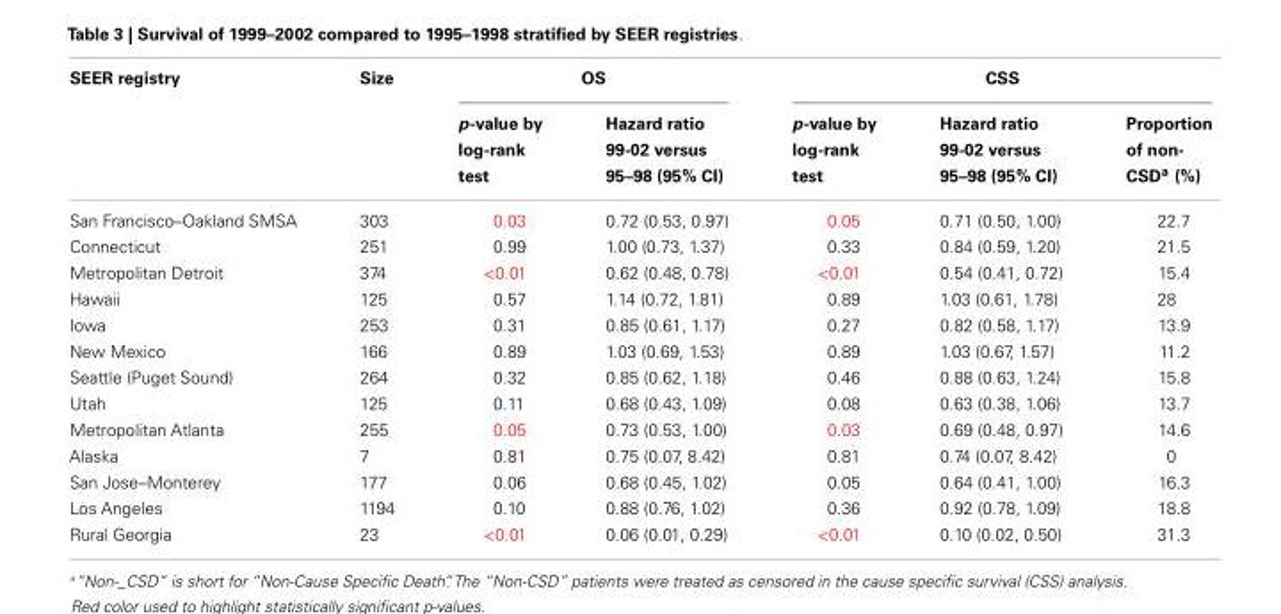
<table><thead><tr><td rowspan="2">SEER registry</td><td rowspan="2">Size</td><td colspan="2">OS</td><td colspan="3">CSS</td></tr><tr><td>p-value by log-rank test</td><td>Hazard ratio 99-02 versus 95–98 (95% CI)</td><td>p-value by log-rank test</td><td>Hazard ratio 99-02 versus 95–98 (95% CI)</td><td>Proportion of non- CSD<sup>a</sup> (%)</td></tr></thead><tbody><tr><td>San Francisco–Oakland SMSA</td><td>303</td><td>0.03</td><td>0.72 (0.53, 0.97)</td><td>0.05</td><td>0.71 (0.50, 1.00)</td><td>22.7</td></tr><tr><td>Connecticut</td><td>251</td><td>0.99</td><td>1.00 (0.73, 1.37)</td><td>0.33</td><td>0.84 (0.59, 1.20)</td><td>21.5</td></tr><tr><td>Metropolitan Detroit</td><td>374</td><td>&lt;0.01</td><td>0.62 (0.48, 0.78)</td><td>&lt;0.01</td><td>0.54 (0.41, 0.72)</td><td>15.4</td></tr><tr><td>Hawaii</td><td>125</td><td>0.57</td><td>1.14 (0.72, 1.81)</td><td>0.89</td><td>1.03 (0.61, 1.78)</td><td>28</td></tr><tr><td>Iowa</td><td>253</td><td>0.31</td><td>0.85 (0.61, 1.17)</td><td>0.27</td><td>0.82 (0.58, 1.17)</td><td>13.9</td></tr><tr><td>New Mexico</td><td>166</td><td>0.89</td><td>1.03 (0.69, 1.53)</td><td>0.89</td><td>1.03 (0.67, 1.57)</td><td>11.2</td></tr><tr><td>Seattle (Puget Sound)</td><td>264</td><td>0.32</td><td>0.85 (0.62, 1.18)</td><td>0.46</td><td>0.88 (0.63, 1.24)</td><td>15.8</td></tr><tr><td>Utah</td><td>125</td><td>0.11</td><td>0.68 (0.43, 1.09)</td><td>0.08</td><td>0.63 (0.38, 1.06)</td><td>13.7</td></tr><tr><td>Metropolitan Atlanta</td><td>255</td><td>0.05</td><td>0.73 (0.53, 1.00)</td><td>0.03</td><td>0.69 (0.48, 0.97)</td><td>14.6</td></tr><tr><td>Alaska</td><td>7</td><td>0.81</td><td>0.75 (0.07, 8.42)</td><td>0.81</td><td>0.74 (0.07, 8.42)</td><td>0</td></tr><tr><td>San Jose–Monterey</td><td>177</td><td>0.06</td><td>0.68 (0.45, 1.02)</td><td>0.05</td><td>0.64 (0.41, 1.00)</td><td>16.3</td></tr><tr><td>Los Angeles</td><td>1194</td><td>0.10</td><td>0.88 (0.76, 1.02)</td><td>0.36</td><td>0.92 (0.78, 1.09)</td><td>18.8</td></tr><tr><td>Rural Georgia</td><td>23</td><td>&lt;0.01</td><td>0.06 (0.01, 0.29)</td><td>&lt;0.01</td><td>0.10 (0.02, 0.50)</td><td>31.3</td></tr></tbody></table>